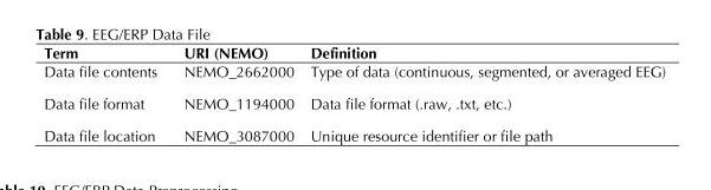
<table><thead><tr><td>Term</td><td>URI (NEMO)</td><td>Definition</td></tr></thead><tbody><tr><td>Data file contents</td><td>NEMO_2662000</td><td>Type of data (continuous, segmented, or averaged EEG)</td></tr><tr><td>Data file format</td><td>NEMO_1194000</td><td>Data file format (.raw, .txt, etc.)</td></tr><tr><td>Data file location</td><td>NEMO_3087000</td><td>Unique resource identifier or file path</td></tr></tbody></table>